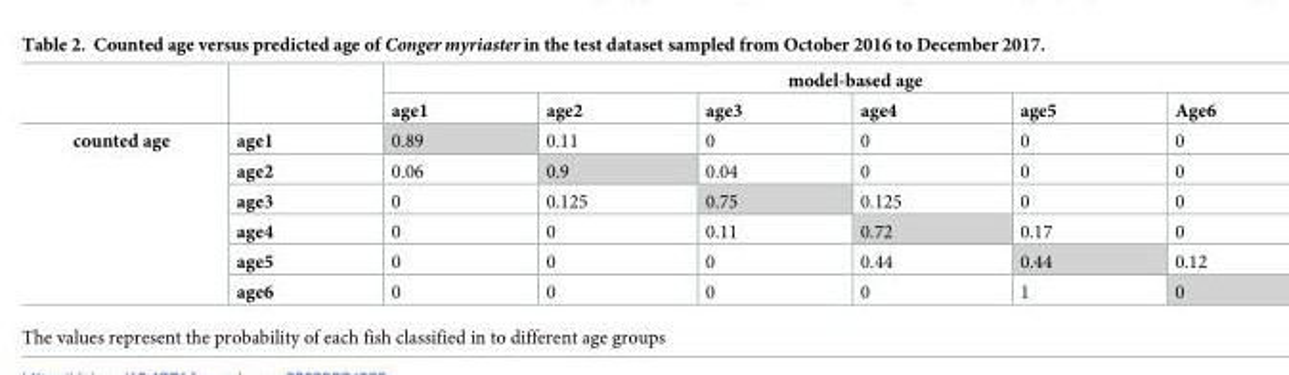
<table><thead><tr><td rowspan="2"></td><td rowspan="2"></td><td colspan="6">model-based age</td></tr><tr><td>age1</td><td>age2</td><td>age3</td><td>age4</td><td>age5</td><td>Age6</td></tr></thead><tbody><tr><td rowspan="6">counted age</td><td>age1</td><td>0.89</td><td>0.11</td><td>0</td><td>0</td><td>0</td><td>0</td></tr><tr><td>age2</td><td>0.06</td><td>0.9</td><td>0.04</td><td>0</td><td>0</td><td>0</td></tr><tr><td>age3</td><td>0</td><td>0.125</td><td>0.75</td><td>0.125</td><td>0</td><td>0</td></tr><tr><td>age4</td><td>0</td><td>0</td><td>0.11</td><td>0.72</td><td>0.17</td><td>0</td></tr><tr><td>age5</td><td>0</td><td>0</td><td>0</td><td>0.44</td><td>0.44</td><td>0.12</td></tr><tr><td>age6</td><td>0</td><td>0</td><td>0</td><td>0</td><td>1</td><td>0</td></tr></tbody></table>